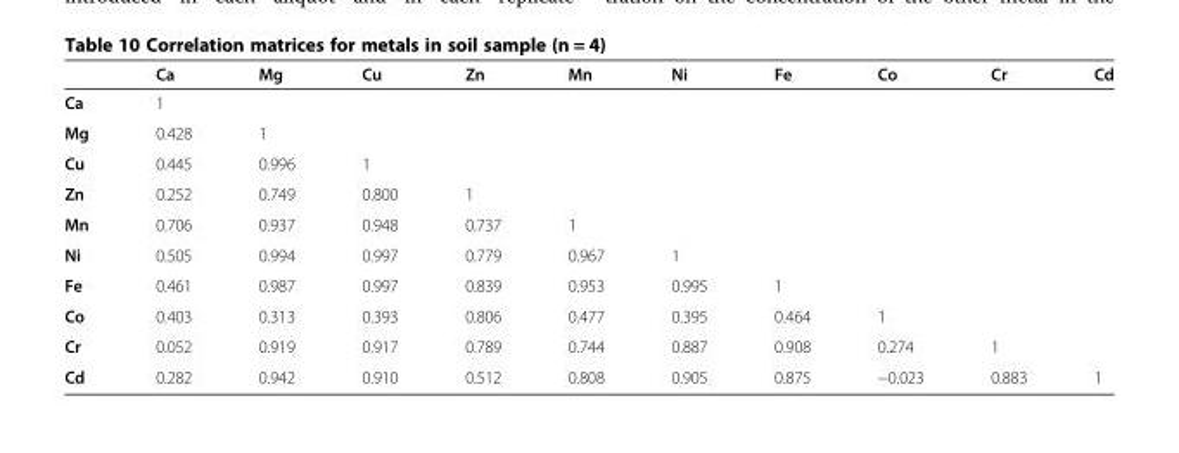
<table><thead><tr><td></td><td>Ca</td><td>Mg</td><td>Cu</td><td>Zn</td><td>Mn</td><td>Ni</td><td>Fe</td><td>Co</td><td>Cr</td><td>Cd</td></tr></thead><tbody><tr><td>Ca</td><td>1</td><td></td><td></td><td></td><td></td><td></td><td></td><td></td><td></td><td></td></tr><tr><td>Mg</td><td>0.428</td><td>1</td><td></td><td></td><td></td><td></td><td></td><td></td><td></td><td></td></tr><tr><td>Cu</td><td>0.445</td><td>0.996</td><td>1</td><td></td><td></td><td></td><td></td><td></td><td></td><td></td></tr><tr><td>Zn</td><td>0.252</td><td>0.749</td><td>0.800</td><td>1</td><td></td><td></td><td></td><td></td><td></td><td></td></tr><tr><td>Mn</td><td>0.706</td><td>0.937</td><td>0.948</td><td>0.737</td><td>1</td><td></td><td></td><td></td><td></td><td></td></tr><tr><td>Ni</td><td>0.505</td><td>0.994</td><td>0.997</td><td>0.779</td><td>0.967</td><td>1</td><td></td><td></td><td></td><td></td></tr><tr><td>Fe</td><td>0.461</td><td>0.987</td><td>0.997</td><td>0.839</td><td>0.953</td><td>0.995</td><td>1</td><td></td><td></td><td></td></tr><tr><td>Co</td><td>0.403</td><td>0.313</td><td>0.393</td><td>0.806</td><td>0.477</td><td>0.395</td><td>0.464</td><td>1</td><td></td><td></td></tr><tr><td>Cr</td><td>0.052</td><td>0.919</td><td>0.917</td><td>0.789</td><td>0.744</td><td>0.887</td><td>0.908</td><td>0.274</td><td>1</td><td></td></tr><tr><td>Cd</td><td>0.282</td><td>0.942</td><td>0.910</td><td>0.512</td><td>0.808</td><td>0.905</td><td>0.875</td><td>−0.023</td><td>0.883</td><td>1</td></tr></tbody></table>